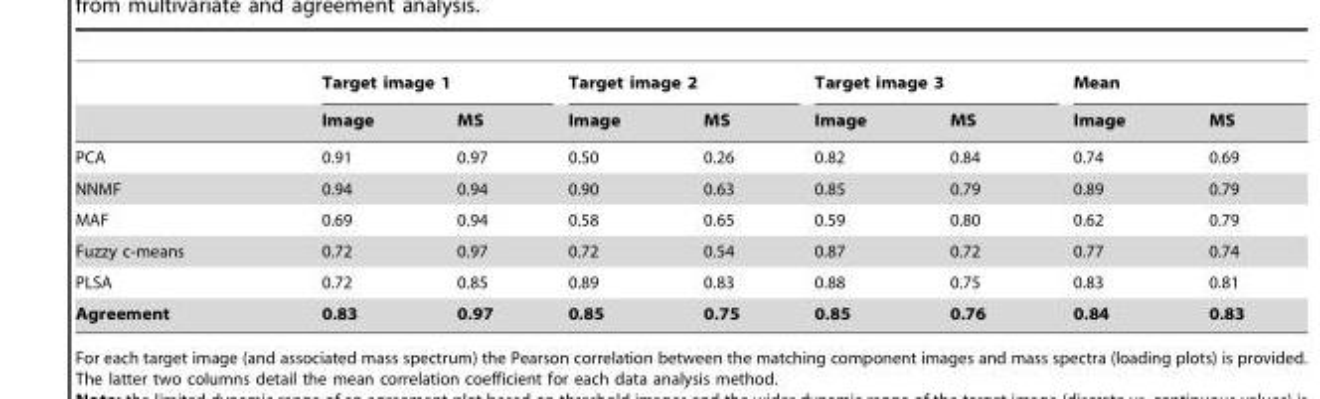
<table><thead><tr><td rowspan="2"></td><td colspan="2">Target image 1</td><td colspan="2">Target image 2</td><td colspan="2">Target image 3</td><td colspan="2">Mean</td></tr><tr><td>Image</td><td>MS</td><td>Image</td><td>MS</td><td>Image</td><td>MS</td><td>Image</td><td>MS</td></tr></thead><tbody><tr><td>PCA</td><td>0.91</td><td>0.97</td><td>0.50</td><td>0.26</td><td>0.82</td><td>0.84</td><td>0.74</td><td>0.69</td></tr><tr><td>NNMF</td><td>0.94</td><td>0.94</td><td>0.90</td><td>0.63</td><td>0.85</td><td>0.79</td><td>0.89</td><td>0.79</td></tr><tr><td>MAF</td><td>0.69</td><td>0.94</td><td>0.58</td><td>0.65</td><td>0.59</td><td>0.80</td><td>0.62</td><td>0.79</td></tr><tr><td>Fuzzy c-means</td><td>0.72</td><td>0.97</td><td>0.72</td><td>0.54</td><td>0.87</td><td>0.72</td><td>0.77</td><td>0.74</td></tr><tr><td>PLSA</td><td>0.72</td><td>0.85</td><td>0.89</td><td>0.83</td><td>0.88</td><td>0.75</td><td>0.83</td><td>0.81</td></tr><tr><td>Agreement</td><td>0.83</td><td>0.97</td><td>0.85</td><td>0.75</td><td>0.85</td><td>0.76</td><td>0.84</td><td>0.83</td></tr></tbody></table>